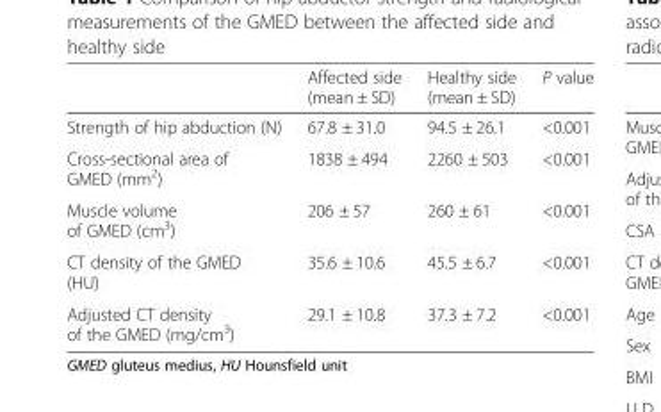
<table><thead><tr><td></td><td>Affected side (mean ± SD)</td><td>Healthy side (mean ± SD)</td><td>P value</td></tr></thead><tbody><tr><td>Strength of hip abduction (N)</td><td>67.8 ± 31.0</td><td>94.5 ± 26.1</td><td>&lt;0.001</td></tr><tr><td>Cross-sectional area of GMED (mm<sup>2</sup>)</td><td>1838 ± 494</td><td>2260 ± 503</td><td>&lt;0.001</td></tr><tr><td>Muscle volume of GMED (cm<sup>3</sup>)</td><td>206 ± 57</td><td>260 ± 61</td><td>&lt;0.001</td></tr><tr><td>CT density of the GMED (HU)</td><td>35.6 ± 10.6</td><td>45.5 ± 6.7</td><td>&lt;0.001</td></tr><tr><td>Adjusted CT density of the GMED (mg/cm<sup>3</sup>)</td><td>29.1 ± 10.8</td><td>37.3 ± 7.2</td><td>&lt;0.001</td></tr></tbody></table>